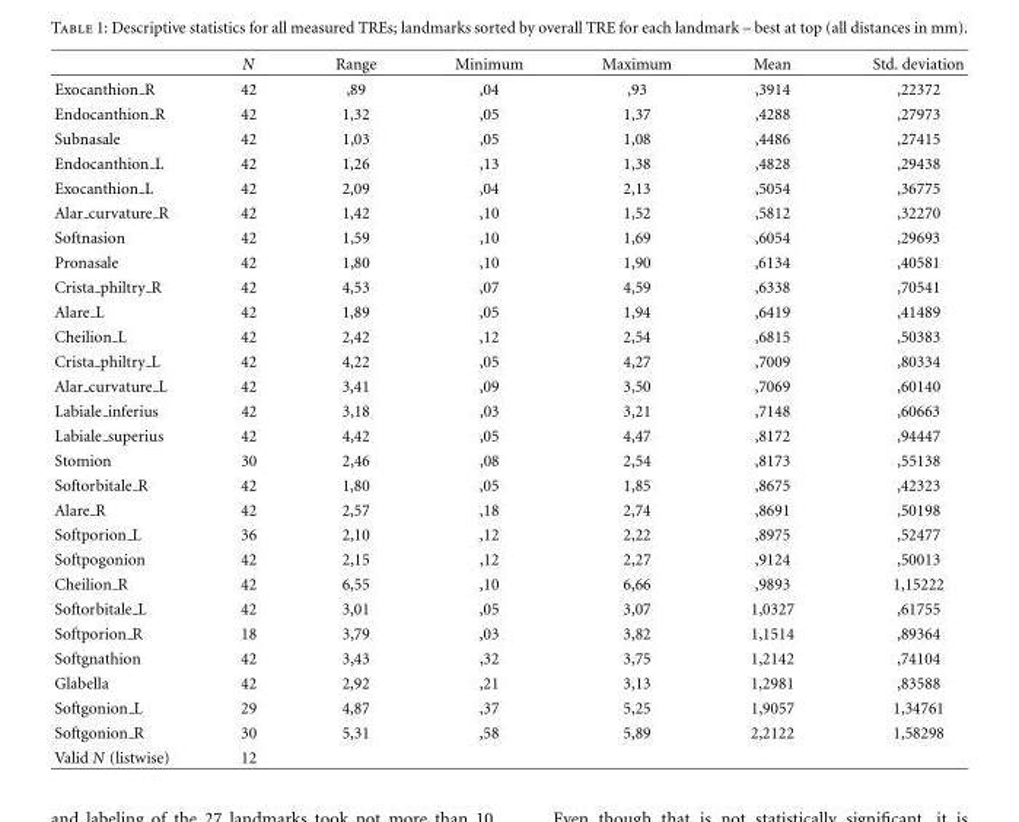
<table><thead><tr><td></td><td>N</td><td>Range</td><td>Minimum</td><td>Maximum</td><td>Mean</td><td>Std. deviation</td></tr></thead><tbody><tr><td>Exocanthion R</td><td>42</td><td>,89</td><td>,04</td><td>,93</td><td>,3914</td><td>,22372</td></tr><tr><td>Endocanthion R</td><td>42</td><td>1,32</td><td>,05</td><td>1,37</td><td>,4288</td><td>,27973</td></tr><tr><td>Subnasale</td><td>42</td><td>1,03</td><td>,05</td><td>1,08</td><td>,4486</td><td>,27415</td></tr><tr><td>Endocanthion L</td><td>42</td><td>1,26</td><td>,13</td><td>1,38</td><td>,4828</td><td>,29438</td></tr><tr><td>Exocanthion L</td><td>42</td><td>2,09</td><td>,04</td><td>2,13</td><td>,5054</td><td>,36775</td></tr><tr><td>Alar <sub>curvature</sub> R</td><td>42</td><td>1,42</td><td>,10</td><td>1,52</td><td>,5812</td><td>,32270</td></tr><tr><td>Softnasion</td><td>42</td><td>1,59</td><td>,10</td><td>1,69</td><td>,6054</td><td>,29693</td></tr><tr><td>Pronasale</td><td>42</td><td>1,80</td><td>,10</td><td>1,90</td><td>,6134</td><td>,40581</td></tr><tr><td>Crista <sub>philtry</sub> R</td><td>42</td><td>4,53</td><td>,07</td><td>4,59</td><td>,6338</td><td>,70541</td></tr><tr><td>Alare L</td><td>42</td><td>1,89</td><td>,05</td><td>1,94</td><td>,6419</td><td>,41489</td></tr><tr><td>Cheilion L</td><td>42</td><td>2,42</td><td>,12</td><td>2,54</td><td>,6815</td><td>,50383</td></tr><tr><td>Crista <sub>philtry</sub> L</td><td>42</td><td>4,22</td><td>,05</td><td>4,27</td><td>,7009</td><td>,80334</td></tr><tr><td>Alar <sub>curvature</sub> L</td><td>42</td><td>3,41</td><td>,09</td><td>3,50</td><td>,7069</td><td>,60140</td></tr><tr><td>Labiale inferius</td><td>42</td><td>3,18</td><td>,03</td><td>3,21</td><td>,7148</td><td>,60663</td></tr><tr><td>Labiale superius</td><td>42</td><td>4,42</td><td>,05</td><td>4,47</td><td>,8172</td><td>,94447</td></tr><tr><td>Stomion</td><td>30</td><td>2,46</td><td>,08</td><td>2,54</td><td>,8173</td><td>,55138</td></tr><tr><td>Softorbitale R</td><td>42</td><td>1,80</td><td>,05</td><td>1,85</td><td>,8675</td><td>,42323</td></tr><tr><td>Alare R</td><td>42</td><td>2,57</td><td>,18</td><td>2,74</td><td>,8691</td><td>,50198</td></tr><tr><td>Softporion L</td><td>36</td><td>2,10</td><td>,12</td><td>2,22</td><td>,8975</td><td>,52477</td></tr><tr><td>Softpogonion</td><td>42</td><td>2,15</td><td>,12</td><td>2,27</td><td>,9124</td><td>,50013</td></tr><tr><td>Cheilion R</td><td>42</td><td>6,55</td><td>,10</td><td>6,66</td><td>,9893</td><td>1,15222</td></tr><tr><td>Softorbitale L</td><td>42</td><td>3,01</td><td>,05</td><td>3,07</td><td>1,0327</td><td>,61755</td></tr><tr><td>Softporion R</td><td>18</td><td>3,79</td><td>,03</td><td>3,82</td><td>1,1514</td><td>,89364</td></tr><tr><td>Softgnathion</td><td>42</td><td>3,43</td><td>,32</td><td>3,75</td><td>1,2142</td><td>,74104</td></tr><tr><td>Glabella</td><td>42</td><td>2,92</td><td>,21</td><td>3,13</td><td>1,2981</td><td>,83588</td></tr><tr><td>Softgonion L</td><td>29</td><td>4,87</td><td>,37</td><td>5,25</td><td>1,9057</td><td>1,34761</td></tr><tr><td>Softgonion R</td><td>30</td><td>5,31</td><td>,58</td><td>5,89</td><td>2,2122</td><td>1,58298</td></tr><tr><td>Valid N (listwise)</td><td>12</td><td></td><td></td><td></td><td></td><td></td></tr></tbody></table>